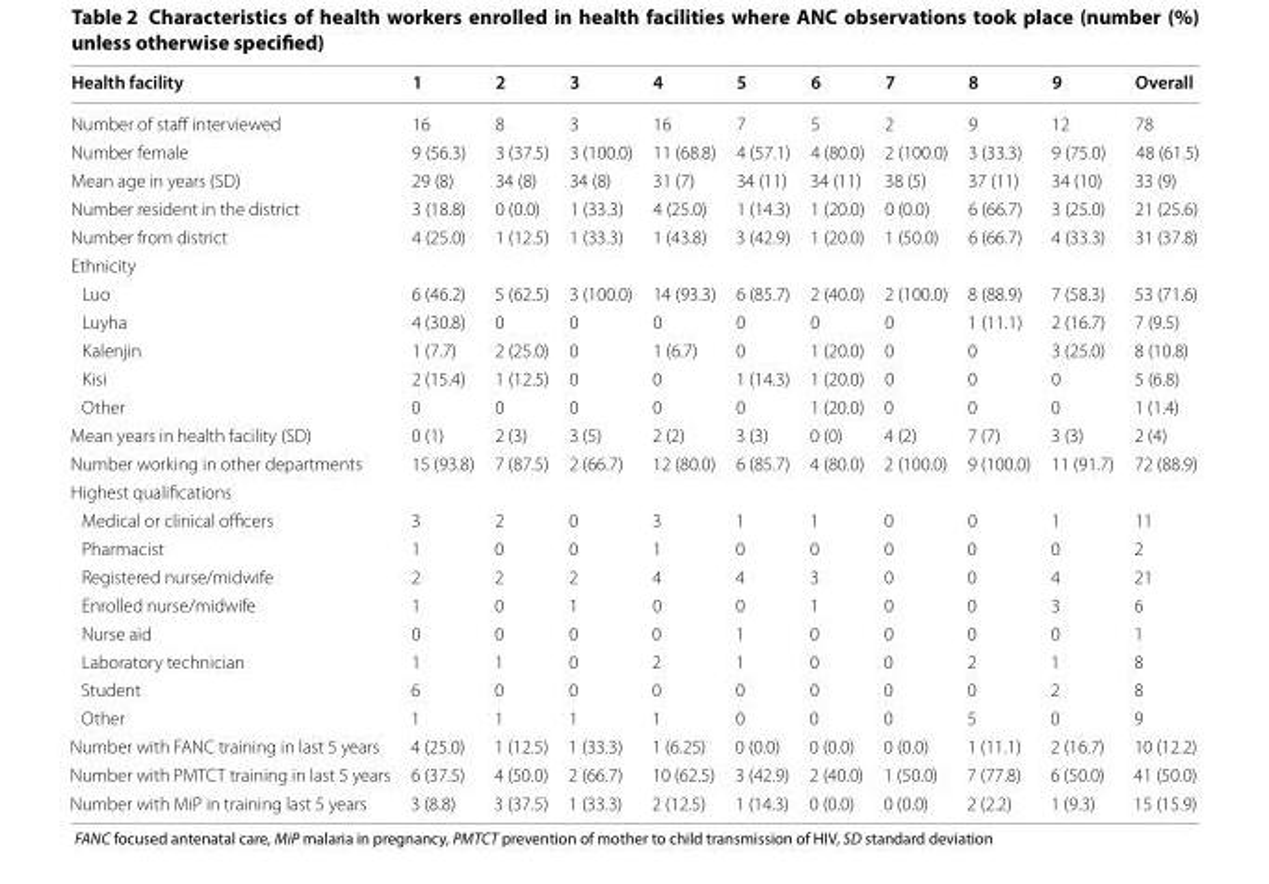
<table><thead><tr><td>Health facility</td><td>1</td><td>2</td><td>3</td><td>4</td><td>5</td><td>6</td><td>7</td><td>8</td><td>9</td><td>Overall</td></tr></thead><tbody><tr><td>Number of staff interviewed</td><td>16</td><td>8</td><td>3</td><td>16</td><td>7</td><td>5</td><td>2</td><td>9</td><td>12</td><td>78</td></tr><tr><td>Number female</td><td>9 (56.3)</td><td>3 (37.5)</td><td>3 (100.0)</td><td>11 (68.8)</td><td>4 (57.1)</td><td>4 (80.0)</td><td>2 (100.0)</td><td>3 (33.3)</td><td>9 (75.0)</td><td>48 (61.5)</td></tr><tr><td>Mean age in years (SD)</td><td>29 (8)</td><td>34 (8)</td><td>34 (8)</td><td>31 (7)</td><td>34 (11)</td><td>34 (11)</td><td>38 (5)</td><td>37 (11)</td><td>34 (10)</td><td>33 (9)</td></tr><tr><td>Number resident in the district</td><td>3 (18.8)</td><td>0 (0.0)</td><td>1 (33.3)</td><td>4 (25.0)</td><td>1 (14.3)</td><td>1 (20.0)</td><td>0 (0.0)</td><td>6 (66.7)</td><td>3 (25.0)</td><td>21 (25.6)</td></tr><tr><td>Number from district</td><td>4 (25.0)</td><td>1 (12.5)</td><td>1 (33.3)</td><td>1 (43.8)</td><td>3 (42.9)</td><td>1 (20.0)</td><td>1 (50.0)</td><td>6 (66.7)</td><td>4 (33.3)</td><td>31 (37.8)</td></tr><tr><td colspan="11">Ethnicity</td></tr><tr><td>Luo</td><td>6 (46.2)</td><td>5 (62.5)</td><td>3 (100.0)</td><td>14 (93.3)</td><td>6 (85.7)</td><td>2 (40.0)</td><td>2 (100.0)</td><td>8 (88.9)</td><td>7 (58.3)</td><td>53 (71.6)</td></tr><tr><td>Luyha</td><td>4 (30.8)</td><td>0</td><td>0</td><td>0</td><td>0</td><td>0</td><td>0</td><td>1 (11.1)</td><td>2 (16.7)</td><td>7 (9.5)</td></tr><tr><td>Kalenjin</td><td>1 (7.7)</td><td>2 (25.0)</td><td>0</td><td>1 (6.7)</td><td>0</td><td>1 (20.0)</td><td>0</td><td>0</td><td>3 (25.0)</td><td>8 (10.8)</td></tr><tr><td>Kisi</td><td>2 (15.4)</td><td>1 (12.5)</td><td>0</td><td>0</td><td>1 (14.3)</td><td>1 (20.0)</td><td>0</td><td>0</td><td>0</td><td>5 (6.8)</td></tr><tr><td>Other</td><td>0</td><td>0</td><td>0</td><td>0</td><td>0</td><td>1 (20.0)</td><td>0</td><td>0</td><td>0</td><td>1 (1.4)</td></tr><tr><td>Mean years in health facility (SD)</td><td>0 (1)</td><td>2 (3)</td><td>3 (5)</td><td>2 (2)</td><td>3 (3)</td><td>0 (0)</td><td>4 (2)</td><td>7 (7)</td><td>3 (3)</td><td>2 (4)</td></tr><tr><td>Number working in other departments</td><td>15 (93.8)</td><td>7 (87.5)</td><td>2 (66.7)</td><td>12 (80.0)</td><td>6 (85.7)</td><td>4 (80.0)</td><td>2 (100.0)</td><td>9 (100.0)</td><td>11 (91.7)</td><td>72 (88.9)</td></tr><tr><td colspan="11">Highest qualifications</td></tr><tr><td>Medical or clinical officers</td><td>3</td><td>2</td><td>0</td><td>3</td><td>1</td><td>1</td><td>0</td><td>0</td><td>1</td><td>11</td></tr><tr><td>Pharmacist</td><td>1</td><td>0</td><td>0</td><td>1</td><td>0</td><td>0</td><td>0</td><td>0</td><td>0</td><td>2</td></tr><tr><td>Registered nurse/midwife</td><td>2</td><td>2</td><td>2</td><td>4</td><td>4</td><td>3</td><td>0</td><td>0</td><td>4</td><td>21</td></tr><tr><td>Enrolled nurse/midwife</td><td>1</td><td>0</td><td>1</td><td>0</td><td>0</td><td>1</td><td>0</td><td>0</td><td>3</td><td>6</td></tr><tr><td>Nurse aid</td><td>0</td><td>0</td><td>0</td><td>0</td><td>1</td><td>0</td><td>0</td><td>0</td><td>0</td><td>1</td></tr><tr><td>Laboratory technician</td><td>1</td><td>1</td><td>0</td><td>2</td><td>1</td><td>0</td><td>0</td><td>2</td><td>1</td><td>8</td></tr><tr><td>Student</td><td>6</td><td>0</td><td>0</td><td>0</td><td>0</td><td>0</td><td>0</td><td>0</td><td>2</td><td>8</td></tr><tr><td>Other</td><td>1</td><td>1</td><td>1</td><td>1</td><td>0</td><td>0</td><td>0</td><td>5</td><td>0</td><td>9</td></tr><tr><td>Number with FANC training in last 5 years</td><td>4 (25.0)</td><td>1 (12.5)</td><td>1 (33.3)</td><td>1 (6.25)</td><td>0 (0.0)</td><td>0 (0.0)</td><td>0 (0.0)</td><td>1 (11.1)</td><td>2 (16.7)</td><td>10 (12.2)</td></tr><tr><td>Number with PMTCT training in last 5 years</td><td>6 (37.5)</td><td>4 (50.0)</td><td>2 (66.7)</td><td>10 (62.5)</td><td>3 (42.9)</td><td>2 (40.0)</td><td>1 (50.0)</td><td>7 (77.8)</td><td>6 (50.0)</td><td>41 (50.0)</td></tr><tr><td>Number with MiP in training last 5 years</td><td>3 (8.8)</td><td>3 (37.5)</td><td>1 (33.3)</td><td>2 (12.5)</td><td>1 (14.3)</td><td>0 (0.0)</td><td>0 (0.0)</td><td>2 (2.2)</td><td>1 (9.3)</td><td>15 (15.9)</td></tr></tbody></table>